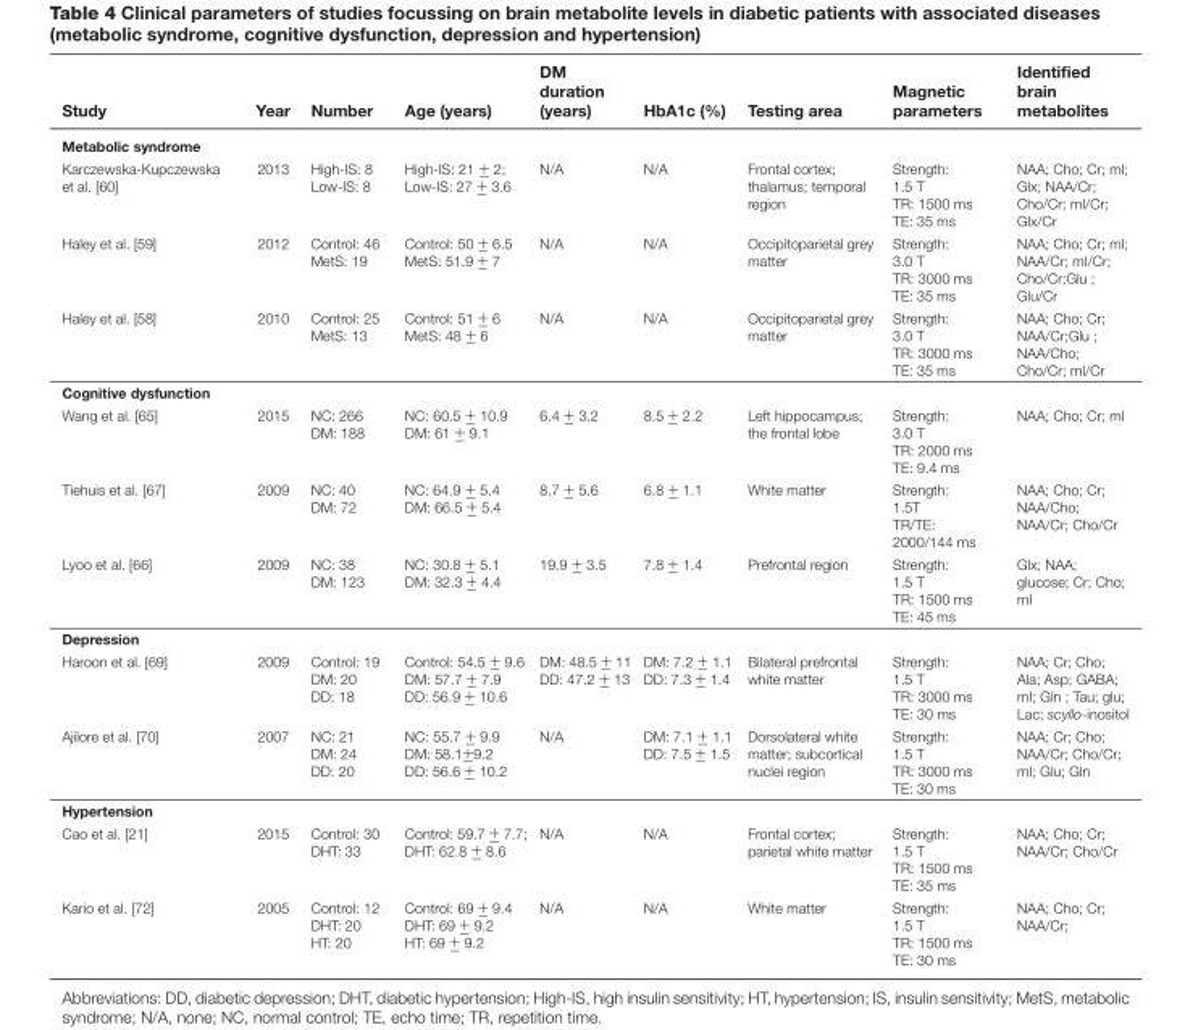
<table><thead><tr><td>Study</td><td>Year</td><td>Number</td><td>Age (years)</td><td>DM duration (years)</td><td>HbA1c (%)</td><td>Testing area</td><td>Magnetic parameters</td><td>Identified brain metabolites</td></tr></thead><tbody><tr><td colspan="9">Metabolic syndrome</td></tr><tr><td>Karczewska-Kupczewska et al. [60]</td><td>2013</td><td>High-IS: 8 Low-IS: 8</td><td>High-IS: 21 +− 2; Low-IS: 27 +− 3.6</td><td>N/A</td><td>N/A</td><td>Frontal cortex; thalamus; temporal region</td><td>Strength: 1.5 T TR: 1500 ms TE: 35 ms</td><td>NAA; Cho; Cr; mI; Glx; NAA/Cr; Cho/Cr; mI/Cr; Glx/Cr</td></tr><tr><td>Haley et al. [59]</td><td>2012</td><td>Control: 46 MetS: 19</td><td>Control: 50 +− 6.5 MetS: 51.9 +− 7</td><td>N/A</td><td>N/A</td><td>Occipitoparietal grey matter</td><td>Strength: 3.0 T TR: 3000 ms TE: 35 ms</td><td>NAA; Cho; Cr; mI; NAA/Cr; mI/Cr; Cho/Cr;Glu ; Glu/Cr</td></tr><tr><td>Haley et al. [58]</td><td>2010</td><td>Control: 25 MetS: 13</td><td>Control: 51 +− 6 MetS: 48 +− 6</td><td>N/A</td><td>N/A</td><td>Occipitoparietal grey matter</td><td>Strength: 3.0 T TR: 3000 ms TE: 35 ms</td><td>NAA; Cho; Cr; NAA/Cr;Glu ; NAA/Cho; Cho/Cr; mI/Cr</td></tr><tr><td colspan="9">Cognitive dysfunction</td></tr><tr><td>Wang et al. [65]</td><td>2015</td><td>NC: 266 DM: 188</td><td>NC: 60.5 +− 10.9 DM: 61 +− 9.1</td><td>6.4 +− 3.2</td><td>8.5 +− 2.2</td><td>Left hippocampus; the frontal lobe</td><td>Strength: 3.0 T TR: 2000 ms TE: 9.4 ms</td><td>NAA; Cho; Cr; mI</td></tr><tr><td>Tiehuis et al. [67]</td><td>2009</td><td>NC: 40 DM: 72</td><td>NC: 64.9 +− 5.4 DM: 66.5 +− 5.4</td><td>8.7 +− 5.6</td><td>6.8 +− 1.1</td><td>White matter</td><td>Strength: 1.5T TR/TE: 2000/144 ms</td><td>NAA; Cho; Cr; NAA/Cho; NAA/Cr; Cho/Cr</td></tr><tr><td>Lyoo et al. [66]</td><td>2009</td><td>NC: 38 DM: 123</td><td>NC: 30.8 +− 5.1 DM: 32.3 +− 4.4</td><td>19.9 +− 3.5</td><td>7.8 +− 1.4</td><td>Prefrontal region</td><td>Strength: 1.5 T TR: 1500 ms TE: 45 ms</td><td>Glx; NAA; glucose; Cr; Cho; mI</td></tr><tr><td colspan="9">Depression</td></tr><tr><td>Haroon et al. [69]</td><td>2009</td><td>Control: 19 DM: 20 DD: 18</td><td>Control: 54.5 +− 9.6 DM: 57.7 +− 7.9 DD: 56.9 +− 10.6</td><td>DM: 48.5 +− 11 DD: 47.2 +− 13</td><td>DM: 7.2 +− 1.1 DD: 7.3 +− 1.4</td><td>Bilateral prefrontal white matter</td><td>Strength: 1.5 T TR: 3000 ms TE: 30 ms</td><td>NAA; Cr; Cho; Ala; Asp; GABA; mI; Gln ; Tau; glu; Lac; scyllo-inositol</td></tr><tr><td>Ajilore et al. [70]</td><td>2007</td><td>NC: 21 DM: 24 DD: 20</td><td>NC: 55.7 +− 9.9 DM: 58.1+−9.2 DD: 56.6 +− 10.2</td><td>N/A</td><td>DM: 7.1 +− 1.1 DD: 7.5 +− 1.5</td><td>Dorsolateral white matter; subcortical nuclei region</td><td>Strength: 1.5 T TR: 3000 ms TE: 30 ms</td><td>NAA; Cr; Cho; NAA/Cr; Cho/Cr; mI; Glu; Gln</td></tr><tr><td colspan="9">Hypertension</td></tr><tr><td>Cao et al. [21]</td><td>2015</td><td>Control: 30 DHT: 33</td><td>Control: 59.7 +− 7.7; DHT: 62.8 +− 8.6</td><td>N/A</td><td>N/A</td><td>Frontal cortex; parietal white matter</td><td>Strength: 1.5 T TR: 1500 ms TE: 35 ms</td><td>NAA; Cho; Cr; NAA/Cr; Cho/Cr</td></tr><tr><td>Kario et al. [72]</td><td>2005</td><td>Control: 12 DHT: 20 HT: 20</td><td>Control: 69 +− 9.4 DHT: 69 +− 9.2 HT: 69 +− 9.2</td><td>N/A</td><td>N/A</td><td>White matter</td><td>Strength: 1.5 T TR: 1500 ms TE: 30 ms</td><td>NAA; Cho; Cr; NAA/Cr;</td></tr></tbody></table>